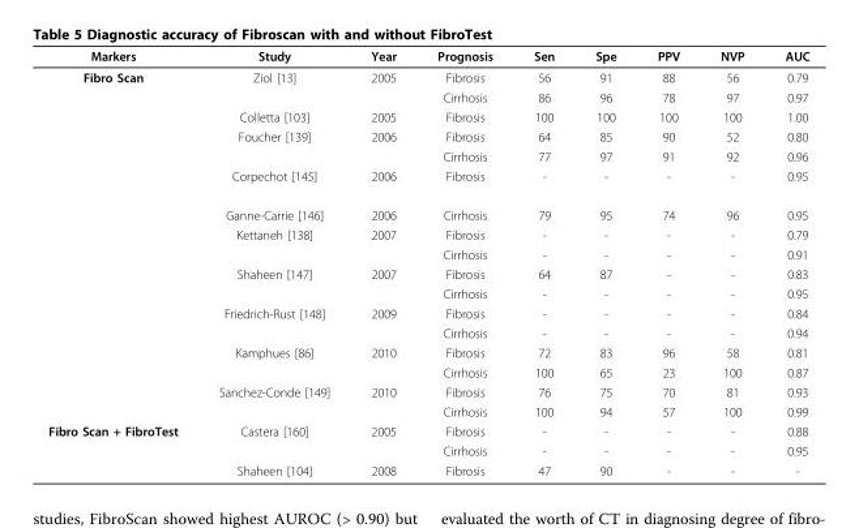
<table><thead><tr><td>Markers</td><td>Study</td><td>Year</td><td>Prognosis</td><td>Sen</td><td>Spe</td><td>PPV</td><td>NVP</td><td>AUC</td></tr></thead><tbody><tr><td rowspan="17">Fibro Scan</td><td>Ziol [13]</td><td>2005</td><td>Fibrosis</td><td>56</td><td>91</td><td>88</td><td>56</td><td>0.79</td></tr><tr><td></td><td></td><td>Cirrhosis</td><td>86</td><td>96</td><td>78</td><td>97</td><td>0.97</td></tr><tr><td>Colletta [103]</td><td>2005</td><td>Fibrosis</td><td>100</td><td>100</td><td>100</td><td>100</td><td>1.00</td></tr><tr><td>Foucher [139]</td><td>2006</td><td>Fibrosis</td><td>64</td><td>85</td><td>90</td><td>52</td><td>0.80</td></tr><tr><td></td><td></td><td>Cirrhosis</td><td>77</td><td>97</td><td>91</td><td>92</td><td>0.96</td></tr><tr><td>Corpechot [145]</td><td>2006</td><td>Fibrosis</td><td>-</td><td>-</td><td>-</td><td>-</td><td>0.95</td></tr><tr><td>Ganne-Carrie [146]</td><td>2006</td><td>Cirrhosis</td><td>79</td><td>95</td><td>74</td><td>96</td><td>0.95</td></tr><tr><td>Kettaneh [138]</td><td>2007</td><td>Fibrosis</td><td>-</td><td>-</td><td>-</td><td>-</td><td>0.79</td></tr><tr><td></td><td></td><td>Cirrhosis</td><td>-</td><td>-</td><td>-</td><td>-</td><td>0.91</td></tr><tr><td>Shaheen [147]</td><td>2007</td><td>Fibrosis</td><td>64</td><td>87</td><td>-</td><td>-</td><td>0.83</td></tr><tr><td></td><td></td><td>Cirrhosis</td><td>-</td><td>-</td><td>-</td><td>-</td><td>0.95</td></tr><tr><td>Friedrich-Rust [148]</td><td>2009</td><td>Fibrosis</td><td>-</td><td>-</td><td>-</td><td>-</td><td>0.84</td></tr><tr><td></td><td></td><td>Cirrhosis</td><td>-</td><td>-</td><td>-</td><td>-</td><td>0.94</td></tr><tr><td>Kamphues [86]</td><td>2010</td><td>Fibrosis</td><td>72</td><td>83</td><td>96</td><td>58</td><td>0.81</td></tr><tr><td></td><td></td><td>Cirrhosis</td><td>100</td><td>65</td><td>23</td><td>100</td><td>0.87</td></tr><tr><td>Sanchez-Conde [149]</td><td>2010</td><td>Fibrosis</td><td>76</td><td>75</td><td>70</td><td>81</td><td>0.93</td></tr><tr><td></td><td></td><td>Cirrhosis</td><td>100</td><td>94</td><td>57</td><td>100</td><td>0.99</td></tr><tr><td rowspan="3">Fibro Scan + FibroTest</td><td>Castera [160]</td><td>2005</td><td>Fibrosis</td><td>-</td><td>-</td><td>-</td><td>-</td><td>0.88</td></tr><tr><td></td><td></td><td>Cirrhosis</td><td>-</td><td>-</td><td>-</td><td>-</td><td>0.95</td></tr><tr><td>Shaheen [104]</td><td>2008</td><td>Fibrosis</td><td>47</td><td>90</td><td>-</td><td>-</td><td>-</td></tr></tbody></table>